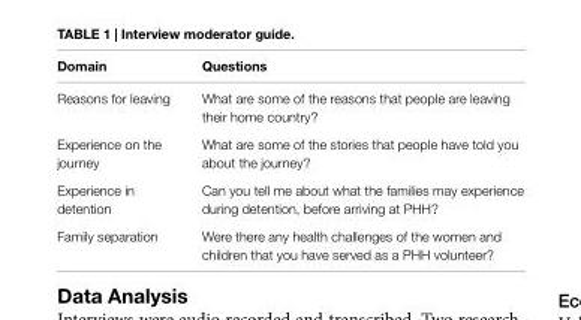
<table><thead><tr><td>Domain</td><td>Questions</td></tr></thead><tbody><tr><td>Reasons for leaving</td><td>What are some of the reasons that people are leaving their home country?</td></tr><tr><td>Experience on the journey</td><td>What are some of the stories that people have told you about the journey?</td></tr><tr><td>Experience in detention</td><td>Can you tell me about what the families may experience during detention, before arriving at PHH?</td></tr><tr><td>Family separation</td><td>Were there any health challenges of the women and children that you have served as a PHH volunteer?</td></tr></tbody></table>